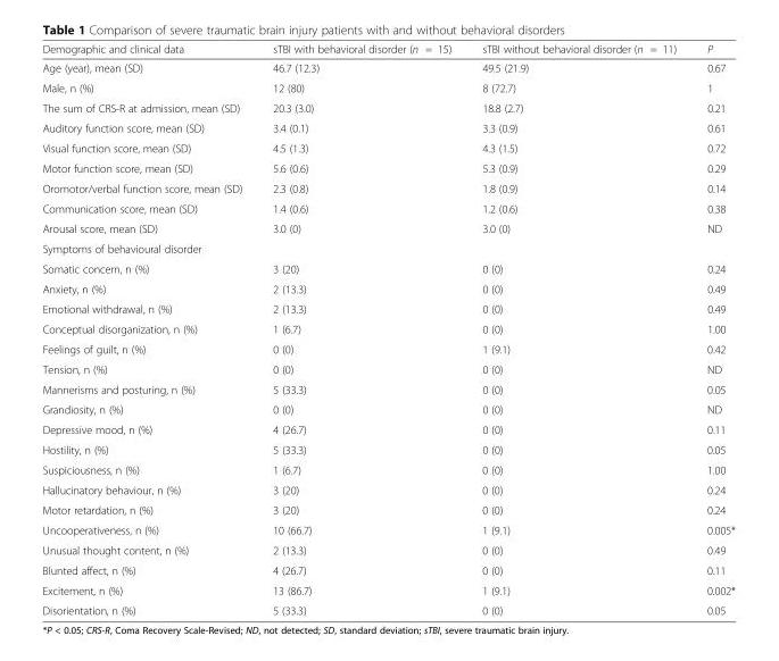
<table><thead><tr><td>Demographic and clinical data</td><td>sTBI with behavioral disorder (n = 15)</td><td>sTBI without behavioral disorder (n = 11)</td><td>P</td></tr></thead><tbody><tr><td>Age (year), mean (SD)</td><td>46.7 (12.3)</td><td>49.5 (21.9)</td><td>0.67</td></tr><tr><td>Male, n (%)</td><td>12 (80)</td><td>8 (72.7)</td><td>1</td></tr><tr><td>The sum of CRS-R at admission, mean (SD)</td><td>20.3 (3.0)</td><td>18.8 (2.7)</td><td>0.21</td></tr><tr><td>Auditory function score, mean (SD)</td><td>3.4 (0.1)</td><td>3.3 (0.9)</td><td>0.61</td></tr><tr><td>Visual function score, mean (SD)</td><td>4.5 (1.3)</td><td>4.3 (1.5)</td><td>0.72</td></tr><tr><td>Motor function score, mean (SD)</td><td>5.6 (0.6)</td><td>5.3 (0.9)</td><td>0.29</td></tr><tr><td>Oromotor/verbal function score, mean (SD)</td><td>2.3 (0.8)</td><td>1.8 (0.9)</td><td>0.14</td></tr><tr><td>Communication score, mean (SD)</td><td>1.4 (0.6)</td><td>1.2 (0.6)</td><td>0.38</td></tr><tr><td>Arousal score, mean (SD)</td><td>3.0 (0)</td><td>3.0 (0)</td><td>ND</td></tr><tr><td colspan="4">Symptoms of behavioural disorder</td></tr><tr><td>Somatic concern, n (%)</td><td>3 (20)</td><td>0 (0)</td><td>0.24</td></tr><tr><td>Anxiety, n (%)</td><td>2 (13.3)</td><td>0 (0)</td><td>0.49</td></tr><tr><td>Emotional withdrawal, n (%)</td><td>2 (13.3)</td><td>0 (0)</td><td>0.49</td></tr><tr><td>Conceptual disorganization, n (%)</td><td>1 (6.7)</td><td>0 (0)</td><td>1.00</td></tr><tr><td>Feelings of guilt, n (%)</td><td>0 (0)</td><td>1 (9.1)</td><td>0.42</td></tr><tr><td>Tension, n (%)</td><td>0 (0)</td><td>0 (0)</td><td>ND</td></tr><tr><td>Mannerisms and posturing, n (%)</td><td>5 (33.3)</td><td>0 (0)</td><td>0.05</td></tr><tr><td>Grandiosity, n (%)</td><td>0 (0)</td><td>0 (0)</td><td>ND</td></tr><tr><td>Depressive mood, n (%)</td><td>4 (26.7)</td><td>0 (0)</td><td>0.11</td></tr><tr><td>Hostility, n (%)</td><td>5 (33.3)</td><td>0 (0)</td><td>0.05</td></tr><tr><td>Suspiciousness, n (%)</td><td>1 (6.7)</td><td>0 (0)</td><td>1.00</td></tr><tr><td>Hallucinatory behaviour, n (%)</td><td>3 (20)</td><td>0 (0)</td><td>0.24</td></tr><tr><td>Motor retardation, n (%)</td><td>3 (20)</td><td>0 (0)</td><td>0.24</td></tr><tr><td>Uncooperativeness, n (%)</td><td>10 (66.7)</td><td>1 (9.1)</td><td>0.005*</td></tr><tr><td>Unusual thought content, n (%)</td><td>2 (13.3)</td><td>0 (0)</td><td>0.49</td></tr><tr><td>Blunted affect, n (%)</td><td>4 (26.7)</td><td>0 (0)</td><td>0.11</td></tr><tr><td>Excitement, n (%)</td><td>13 (86.7)</td><td>1 (9.1)</td><td>0.002*</td></tr><tr><td>Disorientation, n (%)</td><td>5 (33.3)</td><td>0 (0)</td><td>0.05</td></tr></tbody></table>